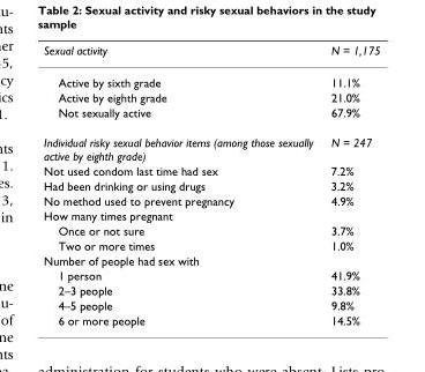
<table><thead><tr><td>Sexual activity</td><td>N = 1,175</td></tr></thead><tbody><tr><td>Active by sixth grade</td><td>11.1%</td></tr><tr><td>Active by eighth grade</td><td>21.0%</td></tr><tr><td>Not sexually active</td><td>67.9%</td></tr><tr><td>Individual risky sexual behavior items (among those sexually active by eighth grade)</td><td>N = 247</td></tr><tr><td>Not used condom last time had sex</td><td>7.2%</td></tr><tr><td>Had been drinking or using drugs</td><td>3.2%</td></tr><tr><td>No method used to prevent pregnancy</td><td>4.9%</td></tr><tr><td colspan="2">How many times pregnant</td></tr><tr><td>Once or not sure</td><td>3.7%</td></tr><tr><td>Two or more times</td><td>1.0%</td></tr><tr><td colspan="2">Number of people had sex with</td></tr><tr><td>1 person</td><td>41.9%</td></tr><tr><td>2–3 people</td><td>33.8%</td></tr><tr><td>4–5 people</td><td>9.8%</td></tr><tr><td>6 or more people</td><td>14.5%</td></tr></tbody></table>